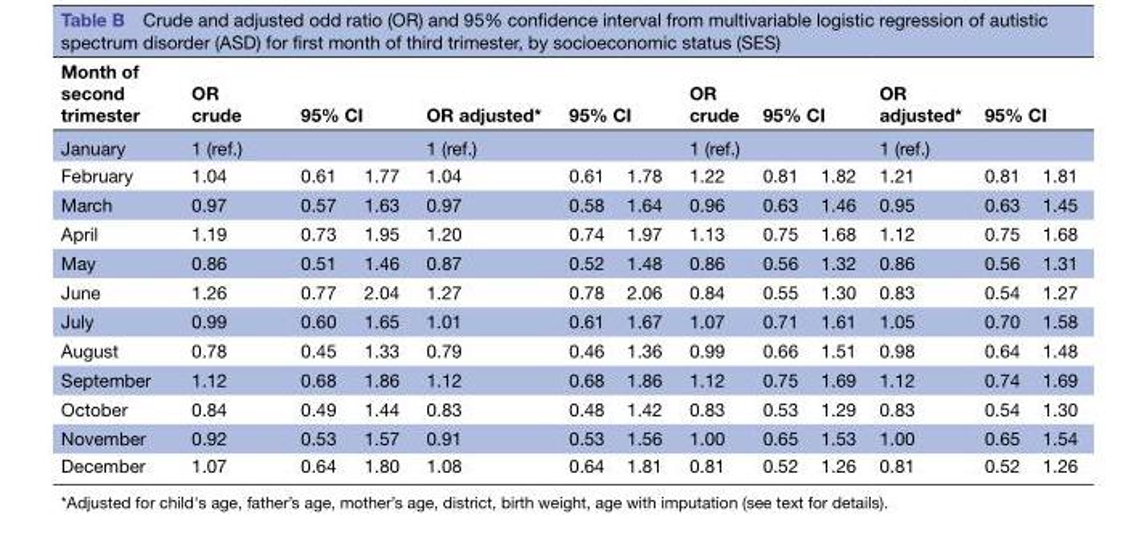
<table><thead><tr><td rowspan="2">Month of second trimester January</td><td rowspan="2">OR crude 1 (ref.)</td><td colspan="2">95% CI</td><td rowspan="2">OR adjusted* 1 (ref.)</td><td colspan="2">95% CI</td><td rowspan="2">OR crude 1 (ref.)</td><td colspan="2">95% CI</td><td rowspan="2">OR adjusted* 1 (ref.)</td><td colspan="2">95% CI</td></tr><tr><td></td><td></td><td></td><td></td><td></td><td></td><td></td><td></td></tr></thead><tbody><tr><td>February</td><td>1.04</td><td>0.61</td><td>1.77</td><td>1.04</td><td>0.61</td><td>1.78</td><td>1.22</td><td>0.81</td><td>1.82</td><td>1.21</td><td>0.81</td><td>1.81</td></tr><tr><td>March</td><td>0.97</td><td>0.57</td><td>1.63</td><td>0.97</td><td>0.58</td><td>1.64</td><td>0.96</td><td>0.63</td><td>1.46</td><td>0.95</td><td>0.63</td><td>1.45</td></tr><tr><td>April</td><td>1.19</td><td>0.73</td><td>1.95</td><td>1.20</td><td>0.74</td><td>1.97</td><td>1.13</td><td>0.75</td><td>1.68</td><td>1.12</td><td>0.75</td><td>1.68</td></tr><tr><td>May</td><td>0.86</td><td>0.51</td><td>1.46</td><td>0.87</td><td>0.52</td><td>1.48</td><td>0.86</td><td>0.56</td><td>1.32</td><td>0.86</td><td>0.56</td><td>1.31</td></tr><tr><td>June</td><td>1.26</td><td>0.77</td><td>2.04</td><td>1.27</td><td>0.78</td><td>2.06</td><td>0.84</td><td>0.55</td><td>1.30</td><td>0.83</td><td>0.54</td><td>1.27</td></tr><tr><td>July</td><td>0.99</td><td>0.60</td><td>1.65</td><td>1.01</td><td>0.61</td><td>1.67</td><td>1.07</td><td>0.71</td><td>1.61</td><td>1.05</td><td>0.70</td><td>1.58</td></tr><tr><td>August</td><td>0.78</td><td>0.45</td><td>1.33</td><td>0.79</td><td>0.46</td><td>1.36</td><td>0.99</td><td>0.66</td><td>1.51</td><td>0.98</td><td>0.64</td><td>1.48</td></tr><tr><td>September</td><td>1.12</td><td>0.68</td><td>1.86</td><td>1.12</td><td>0.68</td><td>1.86</td><td>1.12</td><td>0.75</td><td>1.69</td><td>1.12</td><td>0.74</td><td>1.69</td></tr><tr><td>October</td><td>0.84</td><td>0.49</td><td>1.44</td><td>0.83</td><td>0.48</td><td>1.42</td><td>0.83</td><td>0.53</td><td>1.29</td><td>0.83</td><td>0.54</td><td>1.30</td></tr><tr><td>November</td><td>0.92</td><td>0.53</td><td>1.57</td><td>0.91</td><td>0.53</td><td>1.56</td><td>1.00</td><td>0.65</td><td>1.53</td><td>1.00</td><td>0.65</td><td>1.54</td></tr><tr><td>December</td><td>1.07</td><td>0.64</td><td>1.80</td><td>1.08</td><td>0.64</td><td>1.81</td><td>0.81</td><td>0.52</td><td>1.26</td><td>0.81</td><td>0.52</td><td>1.26</td></tr></tbody></table>